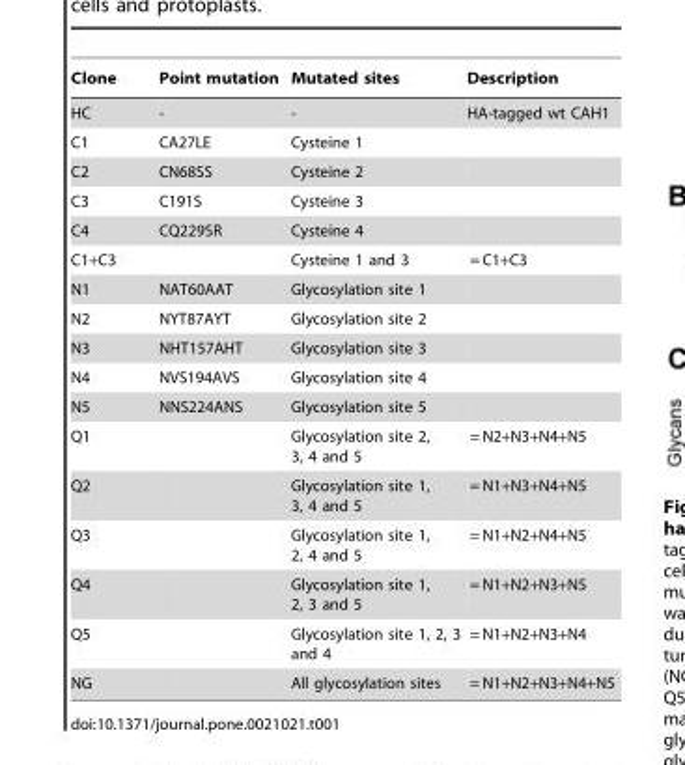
<table><thead><tr><td>Clone</td><td>Point mutation</td><td>Mutated sites</td><td>Description</td></tr></thead><tbody><tr><td>HC</td><td>-</td><td>-</td><td>HA-tagged wt CAH1</td></tr><tr><td>C1</td><td>CA27LE</td><td>Cysteine 1</td><td></td></tr><tr><td>C2</td><td>CN68SS</td><td>Cysteine 2</td><td></td></tr><tr><td>C3</td><td>C191S</td><td>Cysteine 3</td><td></td></tr><tr><td>C4</td><td>CQ229SR</td><td>Cysteine 4</td><td></td></tr><tr><td>C1+C3</td><td></td><td>Cysteine 1 and 3</td><td>= C1+C3</td></tr><tr><td>N1</td><td>NAT60AAT</td><td>Glycosylation site 1</td><td></td></tr><tr><td>N2</td><td>NYT87AYT</td><td>Glycosylation site 2</td><td></td></tr><tr><td>N3</td><td>NHT157AHT</td><td>Glycosylation site 3</td><td></td></tr><tr><td>N4</td><td>NVS194AVS</td><td>Glycosylation site 4</td><td></td></tr><tr><td>N5</td><td>NNS224ANS</td><td>Glycosylation site 5</td><td></td></tr><tr><td>Q1</td><td></td><td>Glycosylation site 2, 3, 4 and 5</td><td>= N2+N3+N4+N5</td></tr><tr><td>Q2</td><td></td><td>Glycosylation site 1, 3, 4 and 5</td><td>= N1+N3+N4+N5</td></tr><tr><td>Q3</td><td></td><td>Glycosylation site 1, 2, 4 and 5</td><td>= N1+N2+N4+N5</td></tr><tr><td>Q4</td><td></td><td>Glycosylation site 1, 2, 3 and 5</td><td>= N1+N2+N3+N5</td></tr><tr><td>Q5</td><td></td><td>Glycosylation site 1, 2, 3 and 4</td><td>= N1+N2+N3+N4</td></tr><tr><td>NG</td><td></td><td>All glycosylation sites</td><td>= N1+N2+N3+N4+N5</td></tr></tbody></table>